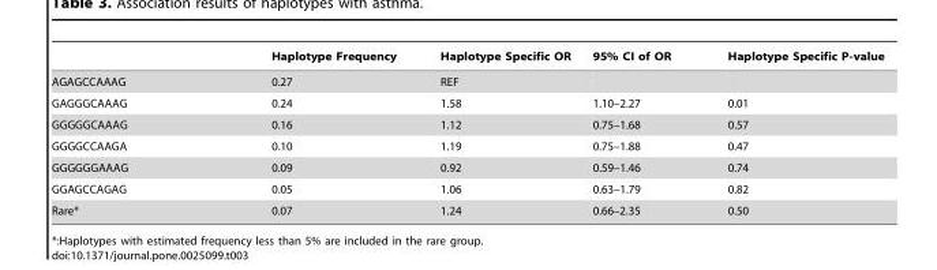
<table><thead><tr><td></td><td>Haplotype Frequency</td><td>Haplotype Specific OR</td><td>95% CI of OR</td><td>Haplotype Specific P-value</td></tr></thead><tbody><tr><td>AGAGCCAAAG</td><td>0.27</td><td>REF</td><td></td><td></td></tr><tr><td>GAGGGCAAAG</td><td>0.24</td><td>1.58</td><td>1.10–2.27</td><td>0.01</td></tr><tr><td>GGGGGCAAAG</td><td>0.16</td><td>1.12</td><td>0.75–1.68</td><td>0.57</td></tr><tr><td>GGGGCCAAGA</td><td>0.10</td><td>1.19</td><td>0.75–1.88</td><td>0.47</td></tr><tr><td>GGGGGGAAAG</td><td>0.09</td><td>0.92</td><td>0.59–1.46</td><td>0.74</td></tr><tr><td>GGAGCCAGAG</td><td>0.05</td><td>1.06</td><td>0.63–1.79</td><td>0.82</td></tr><tr><td>Rare*</td><td>0.07</td><td>1.24</td><td>0.66–2.35</td><td>0.50</td></tr></tbody></table>